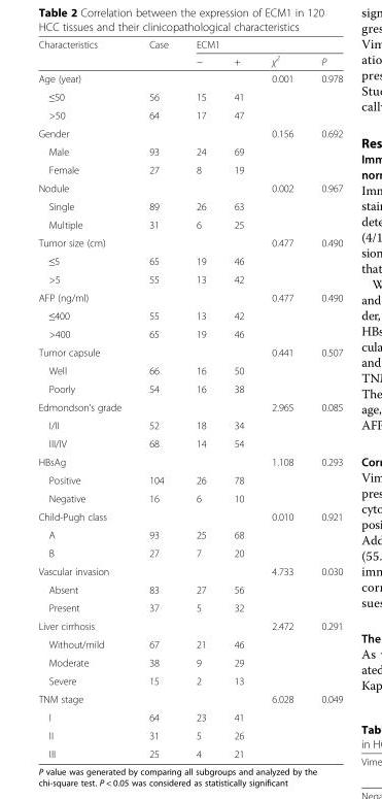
<table><thead><tr><td rowspan="2">Characteristics</td><td rowspan="2">Case</td><td colspan="4">ECM1</td></tr><tr><td>−</td><td>+</td><td>χ<sup>2</sup></td><td>P</td></tr></thead><tbody><tr><td>Age (year)</td><td></td><td></td><td></td><td>0.001</td><td>0.978</td></tr><tr><td>≤50</td><td>56</td><td>15</td><td>41</td><td></td><td></td></tr><tr><td>&gt;50</td><td>64</td><td>17</td><td>47</td><td></td><td></td></tr><tr><td>Gender</td><td></td><td></td><td></td><td>0.156</td><td>0.692</td></tr><tr><td>Male</td><td>93</td><td>24</td><td>69</td><td></td><td></td></tr><tr><td>Female</td><td>27</td><td>8</td><td>19</td><td></td><td></td></tr><tr><td>Nodule</td><td></td><td></td><td></td><td>0.002</td><td>0.967</td></tr><tr><td>Single</td><td>89</td><td>26</td><td>63</td><td></td><td></td></tr><tr><td>Multiple</td><td>31</td><td>6</td><td>25</td><td></td><td></td></tr><tr><td>Tumor size (cm)</td><td></td><td></td><td></td><td>0.477</td><td>0.490</td></tr><tr><td>≤5</td><td>65</td><td>19</td><td>46</td><td></td><td></td></tr><tr><td>&gt;5</td><td>55</td><td>13</td><td>42</td><td></td><td></td></tr><tr><td>AFP (ng/ml)</td><td></td><td></td><td></td><td>0.477</td><td>0.490</td></tr><tr><td>≤400</td><td>55</td><td>13</td><td>42</td><td></td><td></td></tr><tr><td>&gt;400</td><td>65</td><td>19</td><td>46</td><td></td><td></td></tr><tr><td>Tumor capsule</td><td></td><td></td><td></td><td>0.441</td><td>0.507</td></tr><tr><td>Well</td><td>66</td><td>16</td><td>50</td><td></td><td></td></tr><tr><td>Poorly</td><td>54</td><td>16</td><td>38</td><td></td><td></td></tr><tr><td>Edmondson’s grade</td><td></td><td></td><td></td><td>2.965</td><td>0.085</td></tr><tr><td>I/II</td><td>52</td><td>18</td><td>34</td><td></td><td></td></tr><tr><td>III/IV</td><td>68</td><td>14</td><td>54</td><td></td><td></td></tr><tr><td>HBsAg</td><td></td><td></td><td></td><td>1.108</td><td>0.293</td></tr><tr><td>Positive</td><td>104</td><td>26</td><td>78</td><td></td><td></td></tr><tr><td>Negative</td><td>16</td><td>6</td><td>10</td><td></td><td></td></tr><tr><td>Child-Pugh class</td><td></td><td></td><td></td><td>0.010</td><td>0.921</td></tr><tr><td>A</td><td>93</td><td>25</td><td>68</td><td></td><td></td></tr><tr><td>B</td><td>27</td><td>7</td><td>20</td><td></td><td></td></tr><tr><td>Vascular invasion</td><td></td><td></td><td></td><td>4.733</td><td>0.030</td></tr><tr><td>Absent</td><td>83</td><td>27</td><td>56</td><td></td><td></td></tr><tr><td>Present</td><td>37</td><td>5</td><td>32</td><td></td><td></td></tr><tr><td>Liver cirrhosis</td><td></td><td></td><td></td><td>2.472</td><td>0.291</td></tr><tr><td>Without/mild</td><td>67</td><td>21</td><td>46</td><td></td><td></td></tr><tr><td>Moderate</td><td>38</td><td>9</td><td>29</td><td></td><td></td></tr><tr><td>Severe</td><td>15</td><td>2</td><td>13</td><td></td><td></td></tr><tr><td>TNM stage</td><td></td><td></td><td></td><td>6.028</td><td>0.049</td></tr><tr><td>I</td><td>64</td><td>23</td><td>41</td><td></td><td></td></tr><tr><td>II</td><td>31</td><td>5</td><td>26</td><td></td><td></td></tr><tr><td>III</td><td>25</td><td>4</td><td>21</td><td></td><td></td></tr></tbody></table>